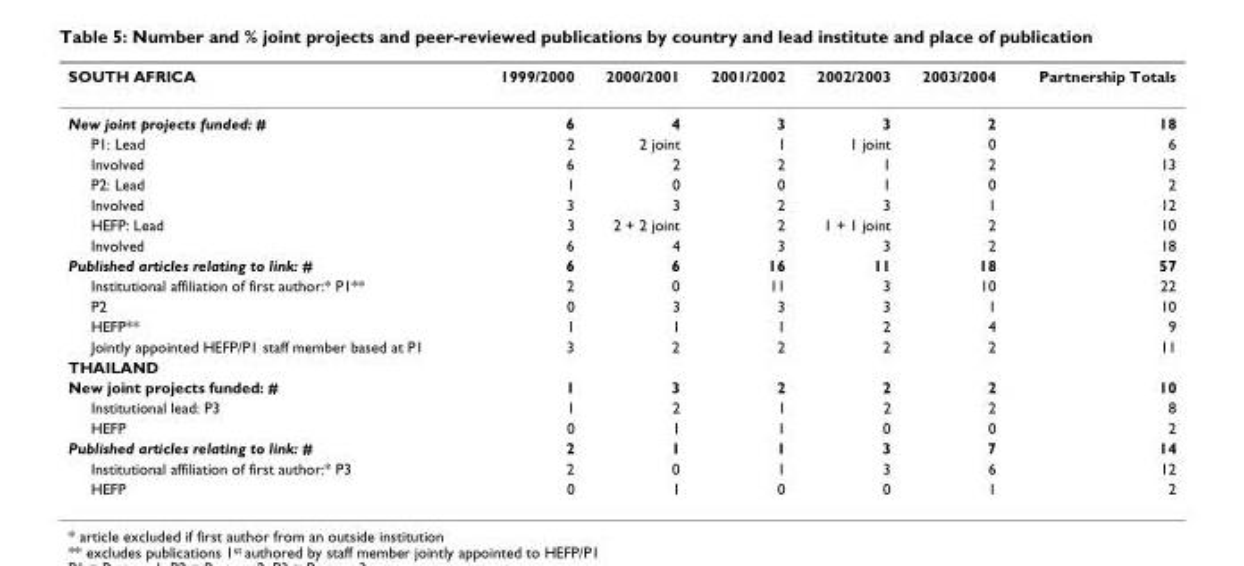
<table><thead><tr><td>SOUTH AFRICA</td><td>1999/2000</td><td>2000/2001</td><td>2001/2002</td><td>2002/2003</td><td>2003/2004</td><td>Partnership Totals</td></tr></thead><tbody><tr><td>New joint projects funded: #</td><td>6</td><td>4</td><td>3</td><td>3</td><td>2</td><td>18</td></tr><tr><td>P1: Lead</td><td>2</td><td>2 joint</td><td>1</td><td>1 joint</td><td>0</td><td>6</td></tr><tr><td>Involved</td><td>6</td><td>2</td><td>2</td><td>1</td><td>2</td><td>13</td></tr><tr><td>P2: Lead</td><td>1</td><td>0</td><td>0</td><td>1</td><td>0</td><td>2</td></tr><tr><td>Involved</td><td>3</td><td>3</td><td>2</td><td>3</td><td>1</td><td>12</td></tr><tr><td>HEFP: Lead</td><td>3</td><td>2 + 2 joint</td><td>2</td><td>1 + 1 joint</td><td>2</td><td>10</td></tr><tr><td>Involved</td><td>6</td><td>4</td><td>3</td><td>3</td><td>2</td><td>18</td></tr><tr><td>Published articles relating to link: #</td><td>6</td><td>6</td><td>16</td><td>11</td><td>18</td><td>57</td></tr><tr><td>Institutional affiliation of first author:* P1**</td><td>2</td><td>0</td><td>11</td><td>3</td><td>10</td><td>22</td></tr><tr><td>P2</td><td>0</td><td>3</td><td>3</td><td>3</td><td>1</td><td>10</td></tr><tr><td>HEFP**</td><td>1</td><td>1</td><td>1</td><td>2</td><td>4</td><td>9</td></tr><tr><td>Jointly appointed HEFP/P1 staff member based at P1</td><td>3</td><td>2</td><td>2</td><td>2</td><td>2</td><td>11</td></tr><tr><td colspan="7">THAILAND</td></tr><tr><td>New joint projects funded: #</td><td>1</td><td>3</td><td>2</td><td>2</td><td>2</td><td>10</td></tr><tr><td>Institutional lead: P3</td><td>1</td><td>2</td><td>1</td><td>2</td><td>2</td><td>8</td></tr><tr><td>HEFP</td><td>0</td><td>1</td><td>1</td><td>0</td><td>0</td><td>2</td></tr><tr><td>Published articles relating to link: #</td><td>2</td><td>1</td><td>1</td><td>3</td><td>7</td><td>14</td></tr><tr><td>Institutional affiliation of first author:* P3</td><td>2</td><td>0</td><td>1</td><td>3</td><td>6</td><td>12</td></tr><tr><td>HEFP</td><td>0</td><td>1</td><td>0</td><td>0</td><td>1</td><td>2</td></tr></tbody></table>